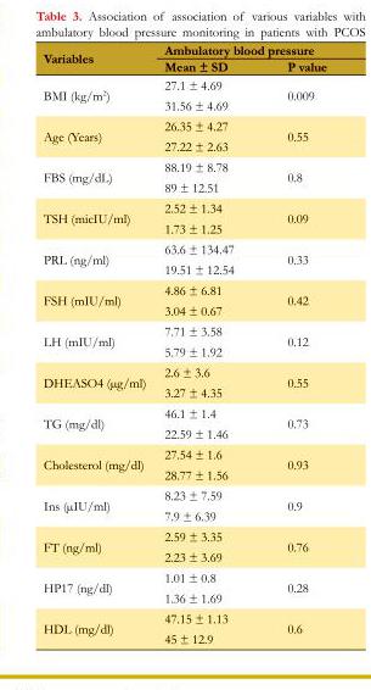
<table><tbody><tr><td rowspan="2">Variables</td><td colspan="2">Ambulatory blood pressure</td></tr><tr><td>Mean ± SD</td><td>P value</td></tr><tr><td rowspan="2">BMI (kg/m<sup>2</sup>)</td><td>27.1 ± 4.69</td><td rowspan="2">0.009</td></tr><tr><td>31.56 ± 4.69</td></tr><tr><td rowspan="2">Age (Years)</td><td>26.35 ± 4.27</td><td rowspan="2">0.55</td></tr><tr><td>27.22 ± 2.63</td></tr><tr><td rowspan="2">FBS (mg/dL)</td><td>88.19 ± 8.78</td><td rowspan="2">0.8</td></tr><tr><td>89 ± 12.51</td></tr><tr><td rowspan="2">TSH (micIU/ml)</td><td>2.52 ± 1.34</td><td rowspan="2">0.09</td></tr><tr><td>1.73 ± 1.25</td></tr><tr><td rowspan="2">PRL (ng/ml)</td><td>63.6 ± 134.47</td><td rowspan="2">0.33</td></tr><tr><td>19.51 ± 12.54</td></tr><tr><td rowspan="2">FSH (mIU/ml)</td><td>4.86 ± 6.81</td><td rowspan="2">0.42</td></tr><tr><td>3.04 ± 0.67</td></tr><tr><td rowspan="2">LH (mIU/ml)</td><td>7.71 ± 3.58</td><td rowspan="2">0.12</td></tr><tr><td>5.79 ± 1.92</td></tr><tr><td rowspan="2">DHEASO4 (µg/ml)</td><td>2.6 ± 3.6</td><td rowspan="2">0.55</td></tr><tr><td>3.27 ± 4.35</td></tr><tr><td rowspan="2">TG (mg/dl)</td><td>46.1 ± 1.4</td><td rowspan="2">0.73</td></tr><tr><td>22.59 ± 1.46</td></tr><tr><td rowspan="2">Cholesterol (mg/dl)</td><td>27.54 ± 1.6</td><td rowspan="2">0.93</td></tr><tr><td>28.77 ± 1.56</td></tr><tr><td rowspan="2">Ins (µIU/ml)</td><td>8.23 ± 7.59</td><td rowspan="2">0.9</td></tr><tr><td>7.9 ± 6.39</td></tr><tr><td rowspan="2">FT (ng/ml)</td><td>2.59 ± 3.35</td><td rowspan="2">0.76</td></tr><tr><td>2.23 ± 3.69</td></tr><tr><td rowspan="2">HP17 (ng/dl)</td><td>1.01 ± 0.8</td><td rowspan="2">0.28</td></tr><tr><td>1.36 ± 1.69</td></tr><tr><td rowspan="2">HDL (mg/dl)</td><td>47.15 ± 1.13</td><td rowspan="2">0.6</td></tr><tr><td>45 ± 12.9</td></tr></tbody></table>